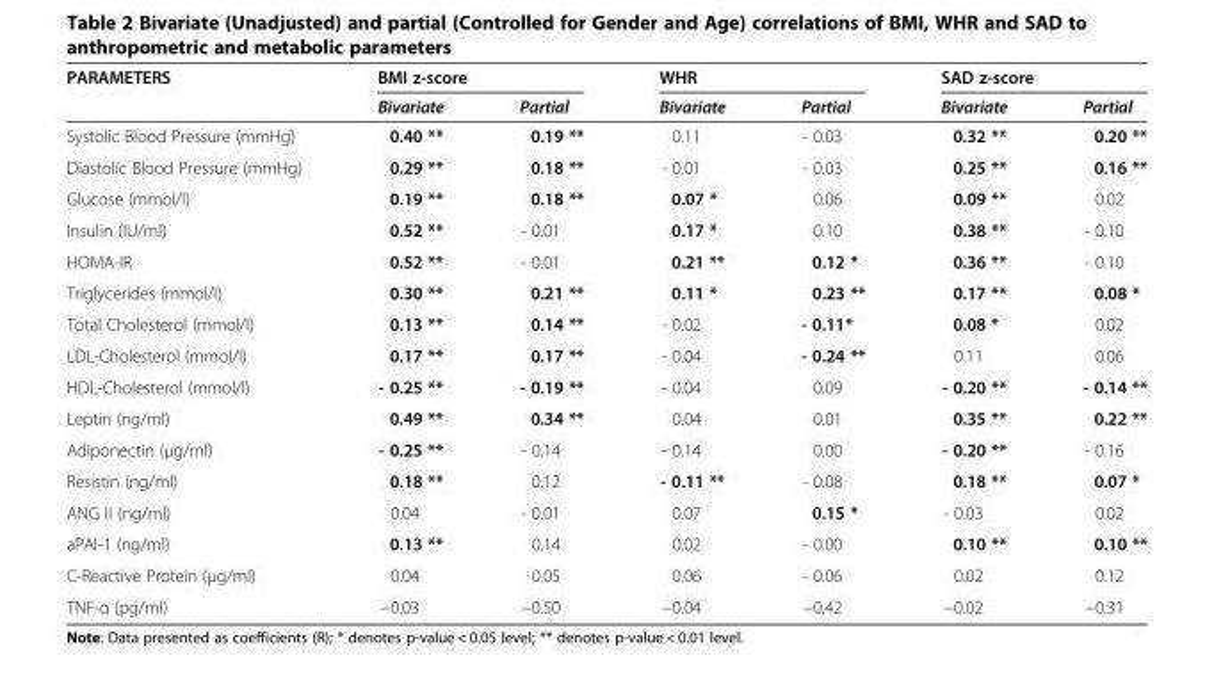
<table><thead><tr><td rowspan="2">PARAMETERS</td><td colspan="2">BMI z-score</td><td colspan="2">WHR</td><td colspan="2">SAD z-score</td></tr><tr><td>Bivariate</td><td>Partial</td><td>Bivariate</td><td>Partial</td><td>Bivariate</td><td>Partial</td></tr></thead><tbody><tr><td>Systolic Blood Pressure (mmHg)</td><td>0.40 **</td><td>0.19 **</td><td>0.11</td><td>- 0.03</td><td>0.32 **</td><td>0.20 **</td></tr><tr><td>Diastolic Blood Pressure (mmHg)</td><td>0.29 **</td><td>0.18 **</td><td>- 0.01</td><td>- 0.03</td><td>0.25 **</td><td>0.16 **</td></tr><tr><td>Glucose (mmol/l)</td><td>0.19 **</td><td>0.18 **</td><td>0.07 *</td><td>0.06</td><td>0.09 **</td><td>0.02</td></tr><tr><td>Insulin (IU/ml)</td><td>0.52 **</td><td>- 0.01</td><td>0.17 *</td><td>0.10</td><td>0.38 **</td><td>- 0.10</td></tr><tr><td>HOMA-IR</td><td>0.52 **</td><td>- 0.01</td><td>0.21 **</td><td>0.12 *</td><td>0.36 **</td><td>- 0.10</td></tr><tr><td>Triglycerides (mmol/l)</td><td>0.30 **</td><td>0.21 **</td><td>0.11 *</td><td>0.23 **</td><td>0.17 **</td><td>0.08 *</td></tr><tr><td>Total Cholesterol (mmol/l)</td><td>0.13 **</td><td>0.14 **</td><td>- 0.02</td><td>- 0.11*</td><td>0.08 *</td><td>0.02</td></tr><tr><td>LDL-Cholesterol (mmol/l)</td><td>0.17 **</td><td>0.17 **</td><td>- 0.04</td><td>- 0.24 **</td><td>0.11</td><td>0.06</td></tr><tr><td>HDL-Cholesterol (mmol/l)</td><td>- 0.25 **</td><td>- 0.19 **</td><td>- 0.04</td><td>0.09</td><td>- 0.20 **</td><td>- 0.14 **</td></tr><tr><td>Leptin (ng/ml)</td><td>0.49 **</td><td>0.34 **</td><td>0.04</td><td>0.01</td><td>0.35 **</td><td>0.22 **</td></tr><tr><td>Adiponectin (μg/ml)</td><td>- 0.25 **</td><td>- 0.14</td><td>- 0.14</td><td>0.00</td><td>- 0.20 **</td><td>- 0.16</td></tr><tr><td>Resistin (ng/ml)</td><td>0.18 **</td><td>0.12</td><td>- 0.11 **</td><td>- 0.08</td><td>0.18 **</td><td>0.07 *</td></tr><tr><td>ANG II (ng/ml)</td><td>0.04</td><td>- 0.01</td><td>0.07</td><td>0.15 *</td><td>- 0.03</td><td>0.02</td></tr><tr><td>aPAI-1 (ng/ml)</td><td>0.13 **</td><td>0.14</td><td>0.02</td><td>- 0.00</td><td>0.10 **</td><td>0.10 **</td></tr><tr><td>C-Reactive Protein (μg/ml)</td><td>0.04</td><td>0.05</td><td>0.06</td><td>- 0.06</td><td>0.02</td><td>0.12</td></tr><tr><td>TNF-α (pg/ml)</td><td>−0.03</td><td>−0.50</td><td>−0.04</td><td>−0.42</td><td>−0.02</td><td>−0.31</td></tr></tbody></table>